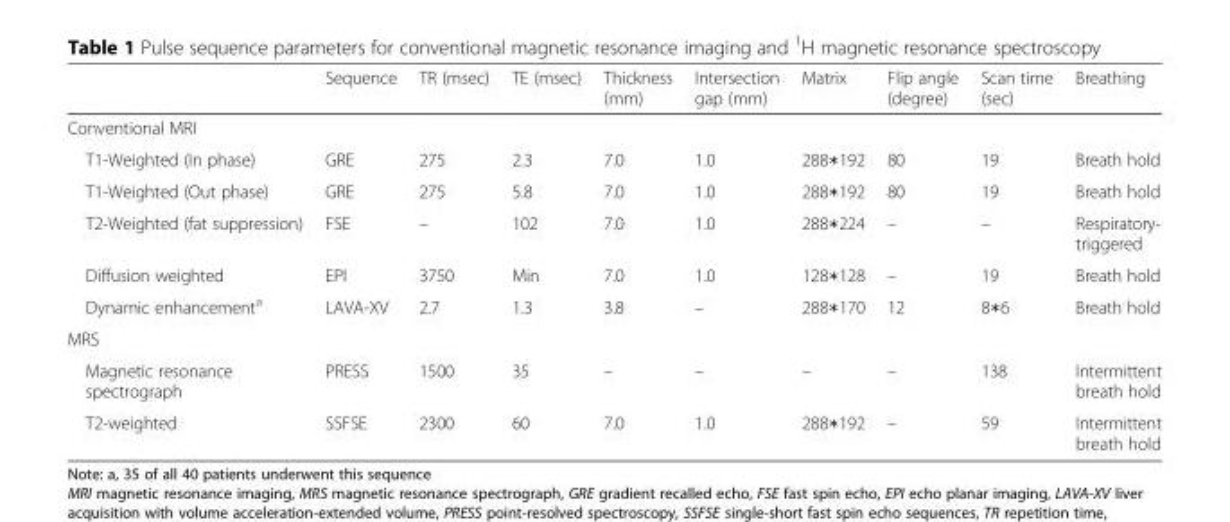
<table><thead><tr><td></td><td>Sequence</td><td>TR (msec)</td><td>TE (msec)</td><td>Thickness (mm)</td><td>Intersection gap (mm)</td><td>Matrix</td><td>Flip angle (degree)</td><td>Scan time (sec)</td><td>Breathing</td></tr></thead><tbody><tr><td colspan="10">Conventional MRI</td></tr><tr><td>T1-Weighted (In phase)</td><td>GRE</td><td>275</td><td>2.3</td><td>7.0</td><td>1.0</td><td>288∗192</td><td>80</td><td>19</td><td>Breath hold</td></tr><tr><td>T1-Weighted (Out phase)</td><td>GRE</td><td>275</td><td>5.8</td><td>7.0</td><td>1.0</td><td>288∗192</td><td>80</td><td>19</td><td>Breath hold</td></tr><tr><td>T2-Weighted (fat suppression)</td><td>FSE</td><td>–</td><td>102</td><td>7.0</td><td>1.0</td><td>288∗224</td><td>–</td><td>–</td><td>Respiratory- triggered</td></tr><tr><td>Diffusion weighted</td><td>EPI</td><td>3750</td><td>Min</td><td>7.0</td><td>1.0</td><td>128∗128</td><td>–</td><td>19</td><td>Breath hold</td></tr><tr><td>Dynamic enhancement<sup>a</sup></td><td>LAVA-XV</td><td>2.7</td><td>1.3</td><td>3.8</td><td>–</td><td>288∗170</td><td>12</td><td>8∗6</td><td>Breath hold</td></tr><tr><td colspan="10">MRS</td></tr><tr><td>Magnetic resonance spectrograph</td><td>PRESS</td><td>1500</td><td>35</td><td>–</td><td>–</td><td>–</td><td>–</td><td>138</td><td>Intermittent breath hold</td></tr><tr><td>T2-weighted</td><td>SSFSE</td><td>2300</td><td>60</td><td>7.0</td><td>1.0</td><td>288∗192</td><td>–</td><td>59</td><td>Intermittent breath hold</td></tr></tbody></table>